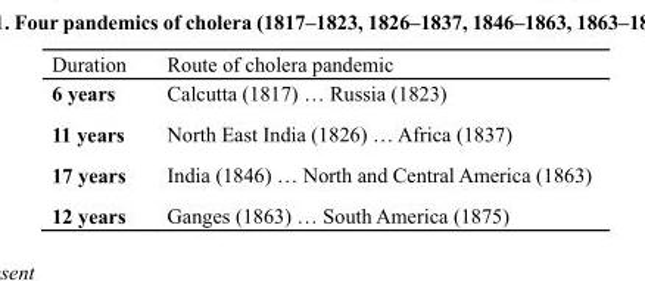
<table><thead><tr><td>Duration</td><td>Route of cholera pandemic</td></tr></thead><tbody><tr><td>6 years</td><td>Calcutta (1817) … Russia (1823)</td></tr><tr><td>11 years</td><td>North East India (1826) … Africa (1837)</td></tr><tr><td>17 years</td><td>India (1846) … North and Central America (1863)</td></tr><tr><td>12 years</td><td>Ganges (1863) … South America (1875)</td></tr></tbody></table>